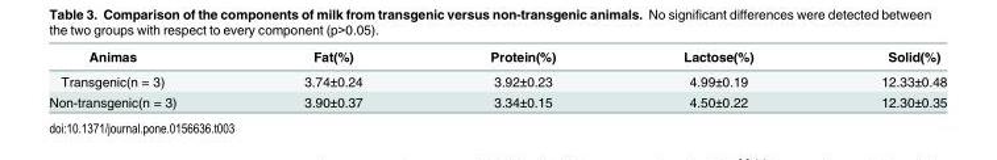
<table><thead><tr><td>Animas</td><td>Fat(%)</td><td>Protein(%)</td><td>Lactose(%)</td><td>Solid(%)</td></tr></thead><tbody><tr><td>Transgenic(n = 3)</td><td>3.74±0.24</td><td>3.92±0.23</td><td>4.99±0.19</td><td>12.33±0.48</td></tr><tr><td>Non-transgenic(n = 3)</td><td>3.90±0.37</td><td>3.34±0.15</td><td>4.50±0.22</td><td>12.30±0.35</td></tr></tbody></table>